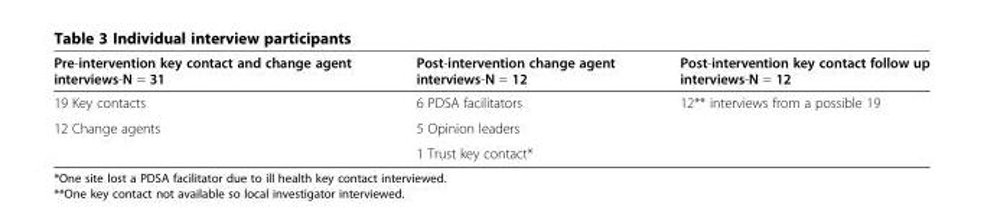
<table><thead><tr><td>Pre-intervention key contact and change agent interviews-N = 31</td><td>Post-intervention change agent interviews-N = 12</td><td>Post-intervention key contact follow up interviews-N = 12</td></tr></thead><tbody><tr><td>19 Key contacts</td><td>6 PDSA facilitators</td><td rowspan="2">12** interviews from a possible 19</td></tr><tr><td rowspan="2">12 Change agents</td><td>5 Opinion leaders</td></tr><tr><td>1 Trust key contact*</td><td></td></tr></tbody></table>